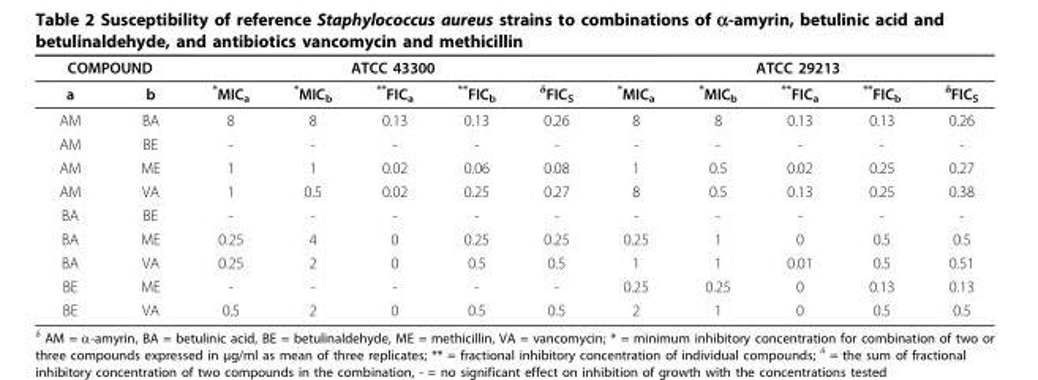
<table><thead><tr><td colspan="2">COMPOUND</td><td colspan="5">ATCC 43300</td><td colspan="5">ATCC 29213</td></tr><tr><td>a</td><td>b</td><td>*MIC<sub>a</sub></td><td>*MIC<sub>b</sub></td><td>**FIC<sub>a</sub></td><td>**FIC<sub>b</sub></td><td><sup>δ</sup>FIC<sub>S</sub></td><td>*MIC<sub>a</sub></td><td>*MIC<sub>b</sub></td><td>**FIC<sub>a</sub></td><td>**FIC<sub>b</sub></td><td><sup>δ</sup>FIC<sub>S</sub></td></tr></thead><tbody><tr><td>AM</td><td>BA</td><td>8</td><td>8</td><td>0.13</td><td>0.13</td><td>0.26</td><td>8</td><td>8</td><td>0.13</td><td>0.13</td><td>0.26</td></tr><tr><td>AM</td><td>BE</td><td>-</td><td>-</td><td>-</td><td>-</td><td>-</td><td>-</td><td>-</td><td>-</td><td>-</td><td>-</td></tr><tr><td>AM</td><td>ME</td><td>1</td><td>1</td><td>0.02</td><td>0.06</td><td>0.08</td><td>1</td><td>0.5</td><td>0.02</td><td>0.25</td><td>0.27</td></tr><tr><td>AM</td><td>VA</td><td>1</td><td>0.5</td><td>0.02</td><td>0.25</td><td>0.27</td><td>8</td><td>0.5</td><td>0.13</td><td>0.25</td><td>0.38</td></tr><tr><td>BA</td><td>BE</td><td>-</td><td>-</td><td>-</td><td>-</td><td>-</td><td>-</td><td>-</td><td>-</td><td>-</td><td>-</td></tr><tr><td>BA</td><td>ME</td><td>0.25</td><td>4</td><td>0</td><td>0.25</td><td>0.25</td><td>0.25</td><td>1</td><td>0</td><td>0.5</td><td>0.5</td></tr><tr><td>BA</td><td>VA</td><td>0.25</td><td>2</td><td>0</td><td>0.5</td><td>0.5</td><td>1</td><td>1</td><td>0.01</td><td>0.5</td><td>0.51</td></tr><tr><td>BE</td><td>ME</td><td>-</td><td>-</td><td>-</td><td>-</td><td>-</td><td>0.25</td><td>0.25</td><td>0</td><td>0.13</td><td>0.13</td></tr><tr><td>BE</td><td>VA</td><td>0.5</td><td>2</td><td>0</td><td>0.5</td><td>0.5</td><td>2</td><td>1</td><td>0</td><td>0.5</td><td>0.5</td></tr></tbody></table>